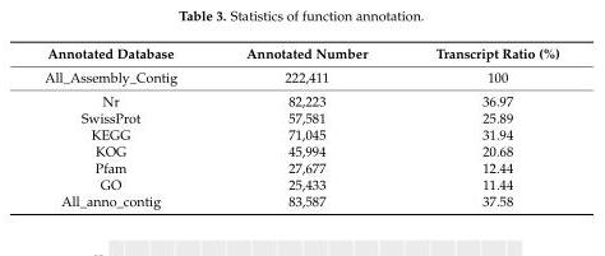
<table><thead><tr><td>Annotated Database</td><td>Annotated Number</td><td>Transcript Ratio (%)</td></tr></thead><tbody><tr><td>All_Assembly_Contig</td><td>222,411</td><td>100</td></tr><tr><td>Nr</td><td>82,223</td><td>36.97</td></tr><tr><td>SwissProt</td><td>57,581</td><td>25.89</td></tr><tr><td>KEGG</td><td>71,045</td><td>31.94</td></tr><tr><td>KOG</td><td>45,994</td><td>20.68</td></tr><tr><td>Pfam</td><td>27,677</td><td>12.44</td></tr><tr><td>GO</td><td>25,433</td><td>11.44</td></tr><tr><td>All_anno_contig</td><td>83,587</td><td>37.58</td></tr></tbody></table>